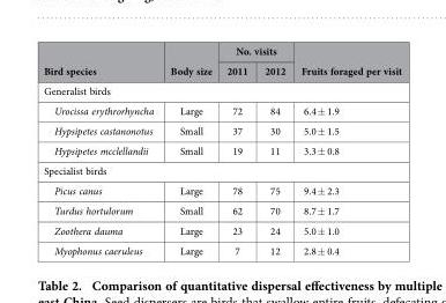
<table><thead><tr><td rowspan="2">Bird species</td><td rowspan="2">Body size</td><td colspan="2">No. visits</td><td rowspan="2">Fruits foraged per visit</td></tr><tr><td>2011</td><td>2012</td></tr></thead><tbody><tr><td colspan="5">Generalist birds</td></tr><tr><td>Urocissa erythrorhyncha</td><td>Large</td><td>72</td><td>84</td><td>6.4 ± 1.9</td></tr><tr><td>Hypsipetes castanonotus</td><td>Small</td><td>37</td><td>30</td><td>5.0 ± 1.5</td></tr><tr><td>Hypsipetes mcclellandii</td><td>Small</td><td>19</td><td>11</td><td>3.3 ± 0.8</td></tr><tr><td colspan="5">Specialist birds</td></tr><tr><td>Picus canus</td><td>Large</td><td>78</td><td>75</td><td>9.4 ± 2.3</td></tr><tr><td>Turdus hortulorum</td><td>Small</td><td>62</td><td>70</td><td>8.7 ± 1.7</td></tr><tr><td>Zoothera dauma</td><td>Large</td><td>23</td><td>24</td><td>5.0 ± 1.0</td></tr><tr><td>Myophonus caeruleus</td><td>Large</td><td>7</td><td>12</td><td>2.8 ± 0.4</td></tr></tbody></table>